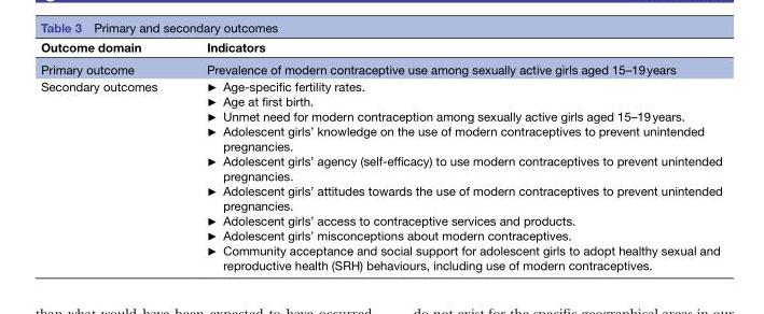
<table><thead><tr><td>Outcome domain</td><td>Indicators</td></tr></thead><tbody><tr><td>Primary outcome</td><td>Prevalence of modern contraceptive use among sexually active girls aged 15–19 years</td></tr><tr><td>Secondary outcomes</td><td>► Age-specific fertility rates. ► Age at first birth. ► Unmet need for modern contraception among sexually active girls aged 15–19 years. ► Adolescent girls’ knowledge on the use of modern contraceptives to prevent unintended pregnancies. ► Adolescent girls’ agency (self-efficacy) to use modern contraceptives to prevent unintended pregnancies. ► Adolescent girls’ attitudes towards the use of modern contraceptives to prevent unintended pregnancies. ► Adolescent girls’ access to contraceptive services and products. ► Adolescent girls’ misconceptions about modern contraceptives. ► Community acceptance and social support for adolescent girls to adopt healthy sexual and reproductive health (SRH) behaviours, including use of modern contraceptives.</td></tr></tbody></table>